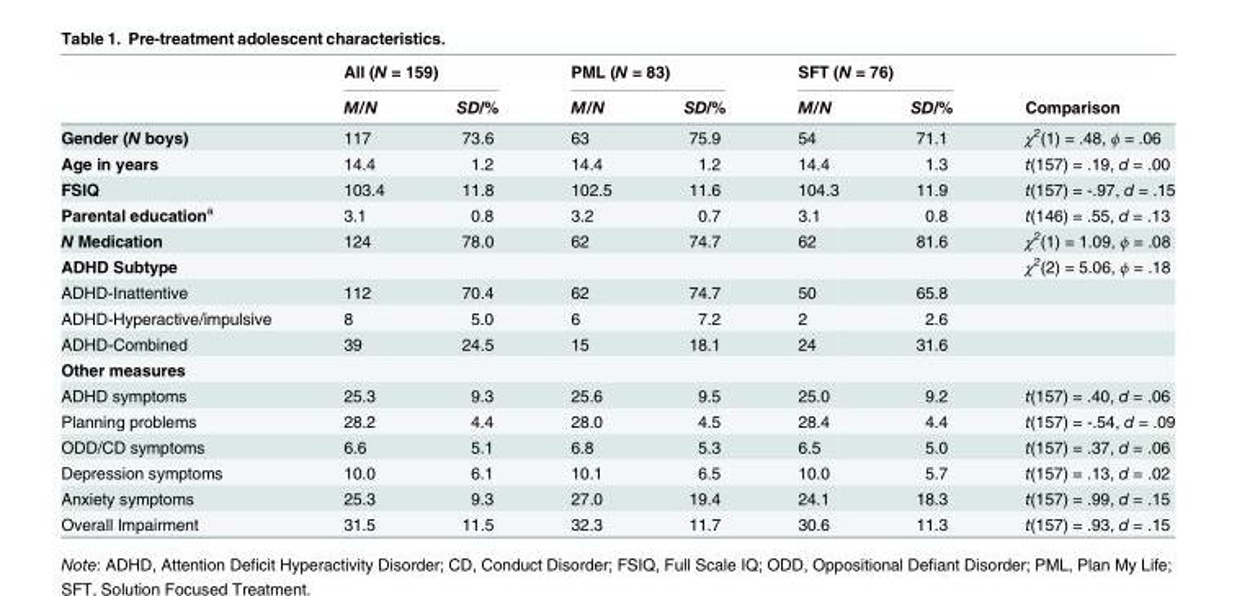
<table><thead><tr><td rowspan="2"></td><td colspan="2">All (N = 159)</td><td colspan="2">PML (N = 83)</td><td colspan="2">SFT (N = 76)</td><td rowspan="2">Comparison</td></tr><tr><td>M/N</td><td>SD/%</td><td>M/N</td><td>SD/%</td><td>M/N</td><td>SD/%</td></tr></thead><tbody><tr><td>Gender (N boys)</td><td>117</td><td>73.6</td><td>63</td><td>75.9</td><td>54</td><td>71.1</td><td>χ<sup>2</sup>(1) = .48, ϕ = .06</td></tr><tr><td>Age in years</td><td>14.4</td><td>1.2</td><td>14.4</td><td>1.2</td><td>14.4</td><td>1.3</td><td>t(157) = .19, d = .00</td></tr><tr><td>FSIQ</td><td>103.4</td><td>11.8</td><td>102.5</td><td>11.6</td><td>104.3</td><td>11.9</td><td>t(157) = -.97, d = .15</td></tr><tr><td>Parental education<sup>a</sup></td><td>3.1</td><td>0.8</td><td>3.2</td><td>0.7</td><td>3.1</td><td>0.8</td><td>t(146) = .55, d = .13</td></tr><tr><td>N Medication</td><td>124</td><td>78.0</td><td>62</td><td>74.7</td><td>62</td><td>81.6</td><td>χ<sup>2</sup>(1) = 1.09, ϕ = .08</td></tr><tr><td>ADHD Subtype</td><td></td><td></td><td></td><td></td><td></td><td></td><td>χ<sup>2</sup>(2) = 5.06, ϕ = .18</td></tr><tr><td>ADHD-Inattentive</td><td>112</td><td>70.4</td><td>62</td><td>74.7</td><td>50</td><td>65.8</td><td></td></tr><tr><td>ADHD-Hyperactive/impulsive</td><td>8</td><td>5.0</td><td>6</td><td>7.2</td><td>2</td><td>2.6</td><td></td></tr><tr><td>ADHD-Combined</td><td>39</td><td>24.5</td><td>15</td><td>18.1</td><td>24</td><td>31.6</td><td></td></tr><tr><td colspan="8">Other measures</td></tr><tr><td>ADHD symptoms</td><td>25.3</td><td>9.3</td><td>25.6</td><td>9.5</td><td>25.0</td><td>9.2</td><td>t(157) = .40, d = .06</td></tr><tr><td>Planning problems</td><td>28.2</td><td>4.4</td><td>28.0</td><td>4.5</td><td>28.4</td><td>4.4</td><td>t(157) = -.54, d = .09</td></tr><tr><td>ODD/CD symptoms</td><td>6.6</td><td>5.1</td><td>6.8</td><td>5.3</td><td>6.5</td><td>5.0</td><td>t(157) = .37, d = .06</td></tr><tr><td>Depression symptoms</td><td>10.0</td><td>6.1</td><td>10.1</td><td>6.5</td><td>10.0</td><td>5.7</td><td>t(157) = .13, d = .02</td></tr><tr><td>Anxiety symptoms</td><td>25.3</td><td>9.3</td><td>27.0</td><td>19.4</td><td>24.1</td><td>18.3</td><td>t(157) = .99, d = .15</td></tr><tr><td>Overall Impairment</td><td>31.5</td><td>11.5</td><td>32.3</td><td>11.7</td><td>30.6</td><td>11.3</td><td>t(157) = .93, d = .15</td></tr></tbody></table>